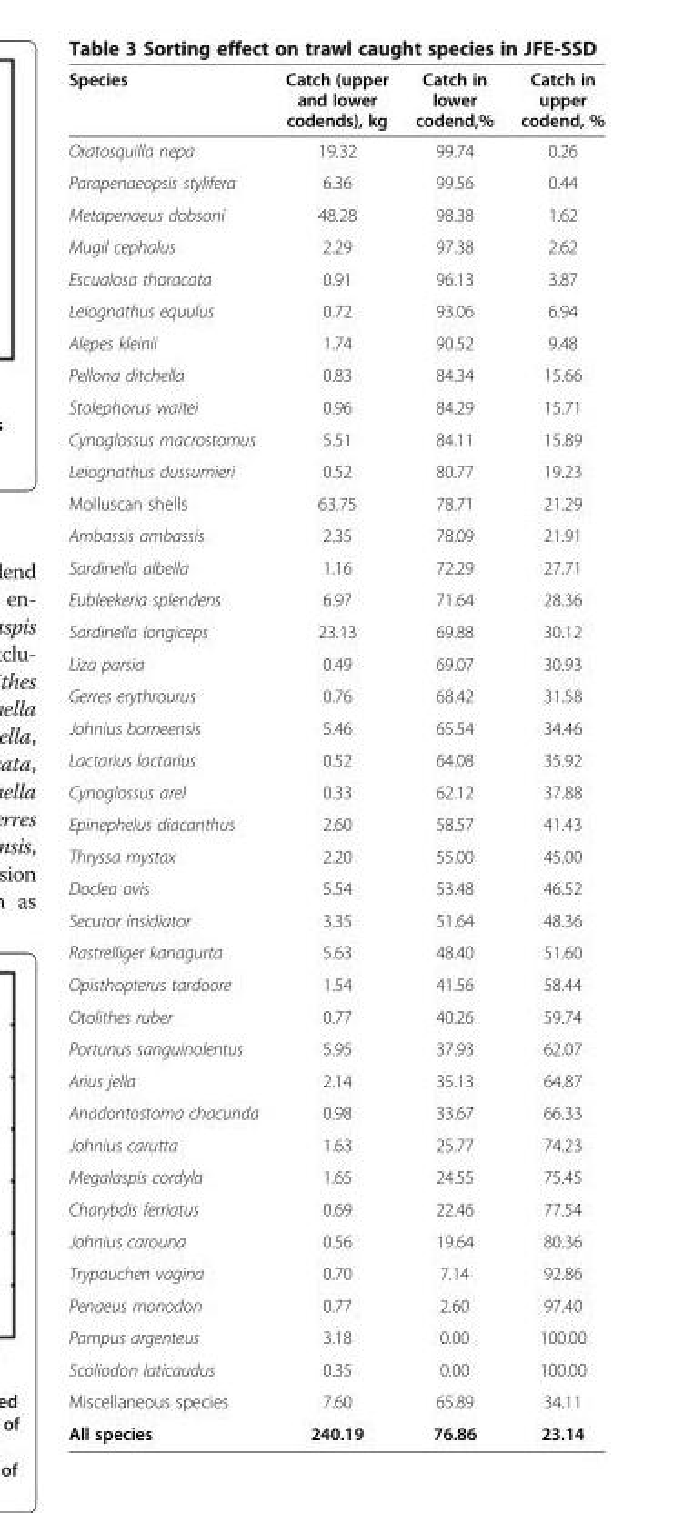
<table><thead><tr><td>Species</td><td>Catch (upper and lower codends), kg</td><td>Catch in lower codend,%</td><td>Catch in upper codend, %</td></tr></thead><tbody><tr><td>Oratosquilla nepa</td><td>19.32</td><td>99.74</td><td>0.26</td></tr><tr><td>Parapenaeopsis stylifera</td><td>6.36</td><td>99.56</td><td>0.44</td></tr><tr><td>Metapenaeus dobsoni</td><td>48.28</td><td>98.38</td><td>1.62</td></tr><tr><td>Mugil cephalus</td><td>2.29</td><td>97.38</td><td>2.62</td></tr><tr><td>Escualosa thoracata</td><td>0.91</td><td>96.13</td><td>3.87</td></tr><tr><td>Leiognathus equulus</td><td>0.72</td><td>93.06</td><td>6.94</td></tr><tr><td>Alepes kleinii</td><td>1.74</td><td>90.52</td><td>9.48</td></tr><tr><td>Pellona ditchella</td><td>0.83</td><td>84.34</td><td>15.66</td></tr><tr><td>Stolephorus waitei</td><td>0.96</td><td>84.29</td><td>15.71</td></tr><tr><td>Cynoglossus macrostomus</td><td>5.51</td><td>84.11</td><td>15.89</td></tr><tr><td>Leiognathus dussumieri</td><td>0.52</td><td>80.77</td><td>19.23</td></tr><tr><td>Molluscan shells</td><td>63.75</td><td>78.71</td><td>21.29</td></tr><tr><td>Ambassis ambassis</td><td>2.35</td><td>78.09</td><td>21.91</td></tr><tr><td>Sardinella albella</td><td>1.16</td><td>72.29</td><td>27.71</td></tr><tr><td>Eubleekeria splendens</td><td>6.97</td><td>71.64</td><td>28.36</td></tr><tr><td>Sardinella longiceps</td><td>23.13</td><td>69.88</td><td>30.12</td></tr><tr><td>Liza parsia</td><td>0.49</td><td>69.07</td><td>30.93</td></tr><tr><td>Gerres erythrourus</td><td>0.76</td><td>68.42</td><td>31.58</td></tr><tr><td>Johnius borneensis</td><td>5.46</td><td>65.54</td><td>34.46</td></tr><tr><td>Lactarius lactarius</td><td>0.52</td><td>64.08</td><td>35.92</td></tr><tr><td>Cynoglossus arel</td><td>0.33</td><td>62.12</td><td>37.88</td></tr><tr><td>Epinephelus diacanthus</td><td>2.60</td><td>58.57</td><td>41.43</td></tr><tr><td>Thryssa mystax</td><td>2.20</td><td>55.00</td><td>45.00</td></tr><tr><td>Doclea ovis</td><td>5.54</td><td>53.48</td><td>46.52</td></tr><tr><td>Secutor insidiator</td><td>3.35</td><td>51.64</td><td>48.36</td></tr><tr><td>Rastrelliger kanagurta</td><td>5.63</td><td>48.40</td><td>51.60</td></tr><tr><td>Opisthopterus tardoore</td><td>1.54</td><td>41.56</td><td>58.44</td></tr><tr><td>Otolithes ruber</td><td>0.77</td><td>40.26</td><td>59.74</td></tr><tr><td>Portunus sanguinolentus</td><td>5.95</td><td>37.93</td><td>62.07</td></tr><tr><td>Arius jella</td><td>2.14</td><td>35.13</td><td>64.87</td></tr><tr><td>Anadontostoma chacunda</td><td>0.98</td><td>33.67</td><td>66.33</td></tr><tr><td>Johnius carutta</td><td>1.63</td><td>25.77</td><td>74.23</td></tr><tr><td>Megalaspis cordyla</td><td>1.65</td><td>24.55</td><td>75.45</td></tr><tr><td>Charybdis ferriatus</td><td>0.69</td><td>22.46</td><td>77.54</td></tr><tr><td>Johnius carouna</td><td>0.56</td><td>19.64</td><td>80.36</td></tr><tr><td>Trypauchen vagina</td><td>0.70</td><td>7.14</td><td>92.86</td></tr><tr><td>Penaeus monodon</td><td>0.77</td><td>2.60</td><td>97.40</td></tr><tr><td>Pampus argenteus</td><td>3.18</td><td>0.00</td><td>100.00</td></tr><tr><td>Scoliodon laticaudus</td><td>0.35</td><td>0.00</td><td>100.00</td></tr><tr><td>Miscellaneous species</td><td>7.60</td><td>65.89</td><td>34.11</td></tr><tr><td>All species</td><td>240.19</td><td>76.86</td><td>23.14</td></tr></tbody></table>